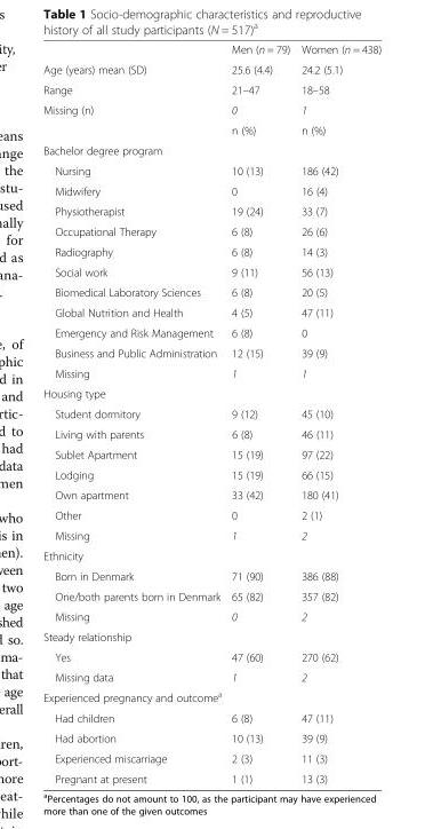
<table><thead><tr><td></td><td>Men (n = 79)</td><td>Women (n = 438)</td></tr></thead><tbody><tr><td>Age (years) mean (SD)</td><td>25.6 (4.4)</td><td>24.2 (5.1)</td></tr><tr><td>Range</td><td>21–47</td><td>18–58</td></tr><tr><td rowspan="2">Missing (n)</td><td>0</td><td>1</td></tr><tr><td>n (%)</td><td>n (%)</td></tr><tr><td colspan="3">Bachelor degree program</td></tr><tr><td>Nursing</td><td>10 (13)</td><td>186 (42)</td></tr><tr><td>Midwifery</td><td>0</td><td>16 (4)</td></tr><tr><td>Physiotherapist</td><td>19 (24)</td><td>33 (7)</td></tr><tr><td>Occupational Therapy</td><td>6 (8)</td><td>26 (6)</td></tr><tr><td>Radiography</td><td>6 (8)</td><td>14 (3)</td></tr><tr><td>Social work</td><td>9 (11)</td><td>56 (13)</td></tr><tr><td>Biomedical Laboratory Sciences</td><td>6 (8)</td><td>20 (5)</td></tr><tr><td>Global Nutrition and Health</td><td>4 (5)</td><td>47 (11)</td></tr><tr><td>Emergency and Risk Management</td><td>6 (8)</td><td>0</td></tr><tr><td>Business and Public Administration</td><td>12 (15)</td><td>39 (9)</td></tr><tr><td>Missing</td><td>1</td><td>1</td></tr><tr><td colspan="3">Housing type</td></tr><tr><td>Student dormitory</td><td>9 (12)</td><td>45 (10)</td></tr><tr><td>Living with parents</td><td>6 (8)</td><td>46 (11)</td></tr><tr><td>Sublet Apartment</td><td>15 (19)</td><td>97 (22)</td></tr><tr><td>Lodging</td><td>15 (19)</td><td>66 (15)</td></tr><tr><td>Own apartment</td><td>33 (42)</td><td>180 (41)</td></tr><tr><td>Other</td><td>0</td><td>2 (1)</td></tr><tr><td>Missing</td><td>1</td><td>2</td></tr><tr><td colspan="3">Ethnicity</td></tr><tr><td>Born in Denmark</td><td>71 (90)</td><td>386 (88)</td></tr><tr><td>One/both parents born in Denmark</td><td>65 (82)</td><td>357 (82)</td></tr><tr><td>Missing</td><td>0</td><td>2</td></tr><tr><td colspan="3">Steady relationship</td></tr><tr><td>Yes</td><td>47 (60)</td><td>270 (62)</td></tr><tr><td>Missing data</td><td>1</td><td>2</td></tr><tr><td colspan="3">Experienced pregnancy and outcome<sup>a</sup></td></tr><tr><td>Had children</td><td>6 (8)</td><td>47 (11)</td></tr><tr><td>Had abortion</td><td>10 (13)</td><td>39 (9)</td></tr><tr><td>Experienced miscarriage</td><td>2 (3)</td><td>11 (3)</td></tr><tr><td>Pregnant at present</td><td>1 (1)</td><td>13 (3)</td></tr></tbody></table>